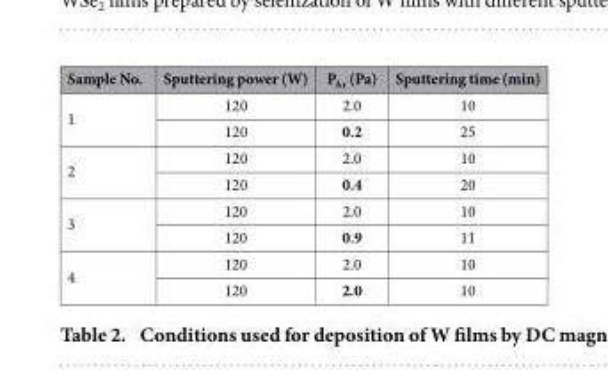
<table><thead><tr><td>Sample No.</td><td>Sputtering power (W)</td><td>P<sub>Ar</sub> (Pa)</td><td>Sputtering time (min)</td></tr></thead><tbody><tr><td rowspan="2">1</td><td>120</td><td>2.0</td><td>10</td></tr><tr><td>120</td><td>0.2</td><td>25</td></tr><tr><td rowspan="2">2</td><td>120</td><td>2.0</td><td>10</td></tr><tr><td>120</td><td>0.4</td><td>20</td></tr><tr><td rowspan="2">3</td><td>120</td><td>2.0</td><td>10</td></tr><tr><td>120</td><td>0.9</td><td>11</td></tr><tr><td rowspan="2">4</td><td>120</td><td>2.0</td><td>10</td></tr><tr><td>120</td><td>2.0</td><td>10</td></tr></tbody></table>